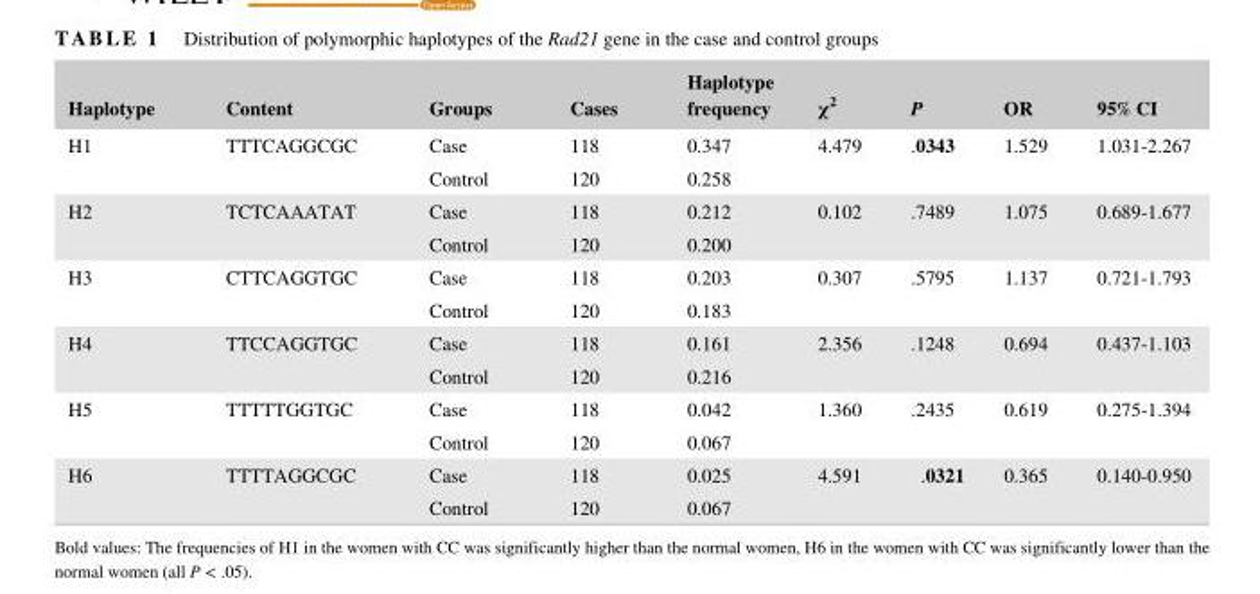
<table><thead><tr><td>Haplotype</td><td>Content</td><td>Groups</td><td>Cases</td><td>Haplotype frequency</td><td>χ<sup>2</sup></td><td>P</td><td>OR</td><td>95% CI</td></tr></thead><tbody><tr><td rowspan="2">H1</td><td rowspan="2">TTTCAGGCGC</td><td>Case</td><td>118</td><td>0.347</td><td rowspan="2">4.479</td><td rowspan="2">.0343</td><td rowspan="2">1.529</td><td rowspan="2">1.031- 2.267</td></tr><tr><td>Control</td><td>120</td><td>0.258</td></tr><tr><td rowspan="2">H2</td><td rowspan="2">TCTCAAATAT</td><td>Case</td><td>118</td><td>0.212</td><td rowspan="2">0.102</td><td rowspan="2">.7489</td><td rowspan="2">1.075</td><td rowspan="2">0.689- 1.677</td></tr><tr><td>Control</td><td>120</td><td>0.200</td></tr><tr><td rowspan="2">H3</td><td rowspan="2">CTTCAGGTGC</td><td>Case</td><td>118</td><td>0.203</td><td rowspan="2">0.307</td><td rowspan="2">.5795</td><td rowspan="2">1.137</td><td rowspan="2">0.721- 1.793</td></tr><tr><td>Control</td><td>120</td><td>0.183</td></tr><tr><td rowspan="2">H4</td><td rowspan="2">TTCCAGGTGC</td><td>Case</td><td>118</td><td>0.161</td><td rowspan="2">2.356</td><td rowspan="2">.1248</td><td rowspan="2">0.694</td><td rowspan="2">0.437- 1.103</td></tr><tr><td>Control</td><td>120</td><td>0.216</td></tr><tr><td rowspan="2">H5</td><td rowspan="2">TTTTTGGTGC</td><td>Case</td><td>118</td><td>0.042</td><td rowspan="2">1.360</td><td rowspan="2">.2435</td><td rowspan="2">0.619</td><td rowspan="2">0.275- 1.394</td></tr><tr><td>Control</td><td>120</td><td>0.067</td></tr><tr><td rowspan="2">H6</td><td rowspan="2">TTTTAGGCGC</td><td>Case</td><td>118</td><td>0.025</td><td rowspan="2">4.591</td><td rowspan="2">.0321</td><td rowspan="2">0.365</td><td rowspan="2">0.140- 0.950</td></tr><tr><td>Control</td><td>120</td><td>0.067</td></tr></tbody></table>